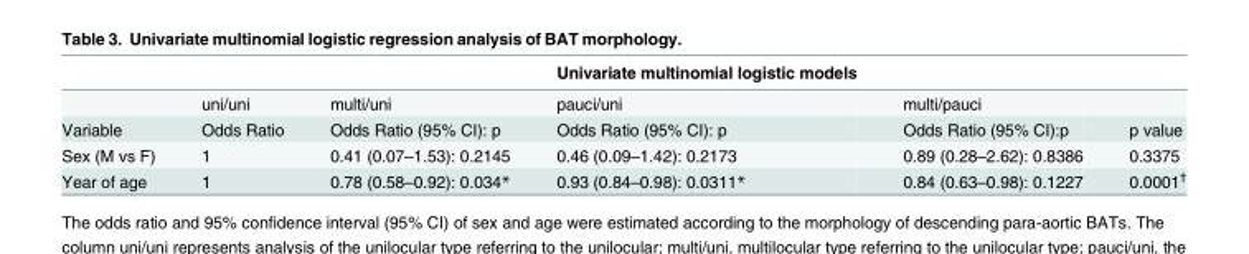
<table><thead><tr><td></td><td></td><td></td><td>Univariate multinomial logistic models</td><td></td><td></td></tr></thead><tbody><tr><td></td><td>uni/uni</td><td>multi/uni</td><td>pauci/uni</td><td>multi/pauci</td><td></td></tr><tr><td>Variable</td><td>Odds Ratio</td><td>Odds Ratio (95% CI): p</td><td>Odds Ratio (95% CI): p</td><td>Odds Ratio (95% CI):p</td><td>p value</td></tr><tr><td>Sex (M vs F)</td><td>1</td><td>0.41 (0.07–1.53): 0.2145</td><td>0.46 (0.09–1.42): 0.2173</td><td>0.89 (0.28–2.62): 0.8386</td><td>0.3375</td></tr><tr><td>Year of age</td><td>1</td><td>0.78 (0.58–0.92): 0.034*</td><td>0.93 (0.84–0.98): 0.0311*</td><td>0.84 (0.63–0.98): 0.1227</td><td>0.0001<sup>†</sup></td></tr></tbody></table>